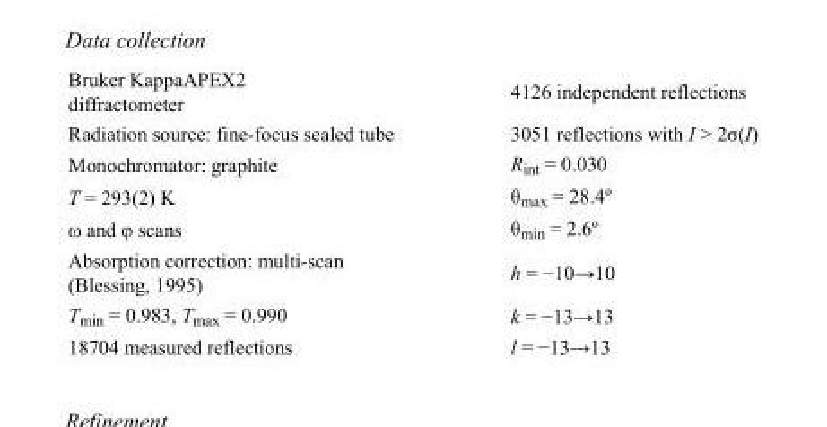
<table><tbody><tr><td>Bruker KappaAPEX2 diffractometer</td><td>4126 independent reflections</td></tr><tr><td>Radiation source: fine-focus sealed tube</td><td>3051 reflections with I &gt; 2σ(I)</td></tr><tr><td>Monochromator: graphite</td><td>R<sub>int</sub> = 0.030</td></tr><tr><td>T = 293(2) K</td><td>θ<sub>max</sub> = 28.4º</td></tr><tr><td>ω and φ scans</td><td>θ<sub>min</sub> = 2.6º</td></tr><tr><td>Absorption correction: multi-scan (Blessing, 1995)</td><td>h = −10→10</td></tr><tr><td>T<sub>min</sub> = 0.983, T<sub>max</sub> = 0.990</td><td>k = −13→13</td></tr><tr><td>18704 measured reflections</td><td>l = −13→13</td></tr></tbody></table>